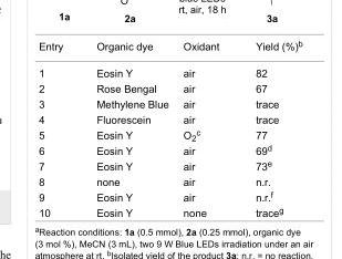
<table><tbody><tr><td>Entry</td><td>Organic dye</td><td>Oxidant</td><td>Yield (%)<sup>b</sup></td></tr><tr><td>1</td><td>Eosin Y</td><td>air</td><td>82</td></tr><tr><td>2</td><td>Rose Bengal</td><td>air</td><td>67</td></tr><tr><td>3</td><td>Methylene Blue</td><td>air</td><td>trace</td></tr><tr><td>4</td><td>Fluorescein</td><td>air</td><td>trace</td></tr><tr><td>5</td><td>Eosin Y</td><td>O<sub>2</sub><sup>c</sup></td><td>77</td></tr><tr><td>6</td><td>Eosin Y</td><td>air</td><td>69<sup>d</sup></td></tr><tr><td>7</td><td>Eosin Y</td><td>air</td><td>73<sup>e</sup></td></tr><tr><td>8</td><td>none</td><td>air</td><td>n.r.</td></tr><tr><td>9</td><td>Eosin Y</td><td>air</td><td>n.r.<sup>f</sup></td></tr><tr><td>10</td><td>Eosin Y</td><td>none</td><td>trace<sup>g</sup></td></tr></tbody></table>